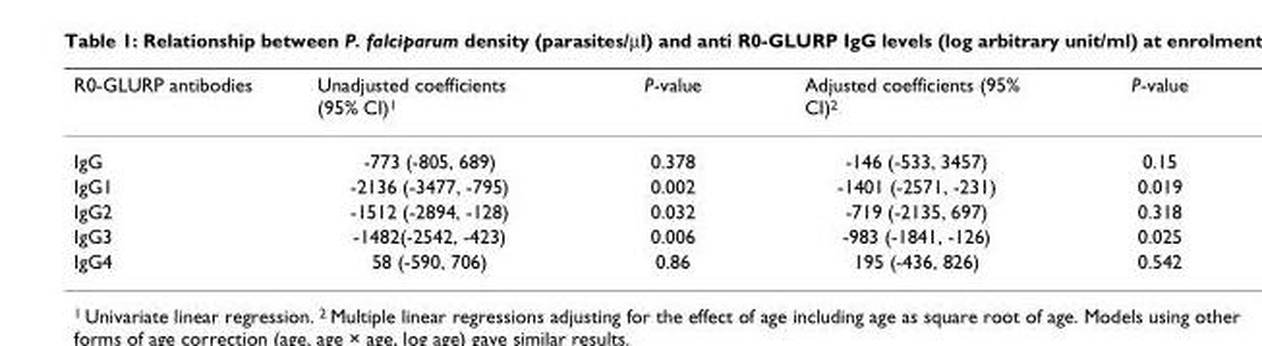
<table><thead><tr><td>R0-GLURP antibodies</td><td>Unadjusted coefficients (95% CI)<sup>1</sup></td><td>P-value</td><td>Adjusted coefficients (95% CI)<sup>2</sup></td><td>P-value</td></tr></thead><tbody><tr><td>IgG</td><td>-773 (-805, 689)</td><td>0.378</td><td>-146 (-533, 3457)</td><td>0.15</td></tr><tr><td>IgG1</td><td>-2136 (-3477, -795)</td><td>0.002</td><td>-1401 (-2571, -231)</td><td>0.019</td></tr><tr><td>IgG2</td><td>-1512 (-2894, -128)</td><td>0.032</td><td>-719 (-2135, 697)</td><td>0.318</td></tr><tr><td>IgG3</td><td>-1482(-2542, -423)</td><td>0.006</td><td>-983 (-1841, -126)</td><td>0.025</td></tr><tr><td>IgG4</td><td>58 (-590, 706)</td><td>0.86</td><td>195 (-436, 826)</td><td>0.542</td></tr></tbody></table>